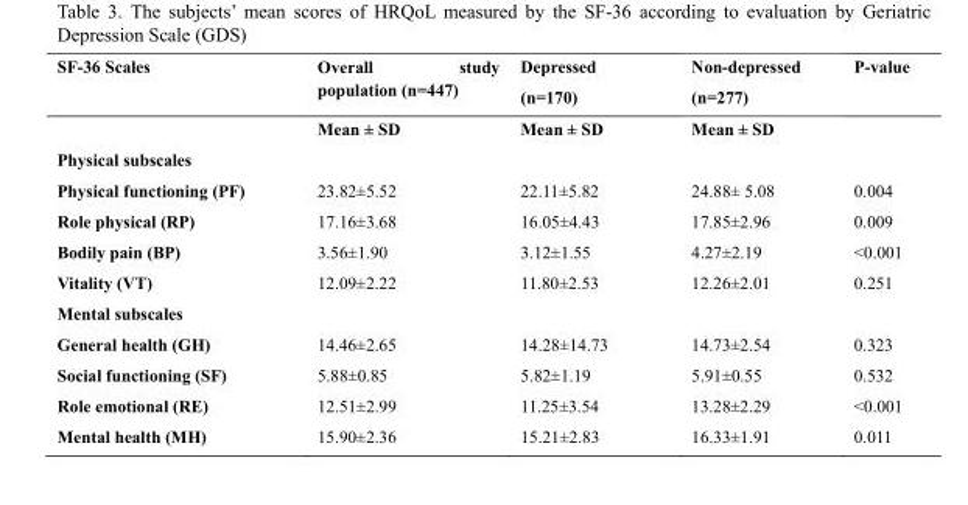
<table><thead><tr><td>SF-36 Scales</td><td>Overall study population (n=447)</td><td>Depressed (n=170)</td><td>Non-depressed (n=277)</td><td>P-value</td></tr></thead><tbody><tr><td></td><td>Mean ± SD</td><td>Mean ± SD</td><td>Mean ± SD</td><td></td></tr><tr><td colspan="5">Physical subscales</td></tr><tr><td>Physical functioning (PF)</td><td>23.82±5.52</td><td>22.11±5.82</td><td>24.88± 5.08</td><td>0.004</td></tr><tr><td>Role physical (RP)</td><td>17.16±3.68</td><td>16.05±4.43</td><td>17.85±2.96</td><td>0.009</td></tr><tr><td>Bodily pain (BP)</td><td>3.56±1.90</td><td>3.12±1.55</td><td>4.27±2.19</td><td>&lt;0.001</td></tr><tr><td>Vitality (VT)</td><td>12.09±2.22</td><td>11.80±2.53</td><td>12.26±2.01</td><td>0.251</td></tr><tr><td colspan="5">Mental subscales</td></tr><tr><td>General health (GH)</td><td>14.46±2.65</td><td>14.28±14.73</td><td>14.73±2.54</td><td>0.323</td></tr><tr><td>Social functioning (SF)</td><td>5.88±0.85</td><td>5.82±1.19</td><td>5.91±0.55</td><td>0.532</td></tr><tr><td>Role emotional (RE)</td><td>12.51±2.99</td><td>11.25±3.54</td><td>13.28±2.29</td><td>&lt;0.001</td></tr><tr><td>Mental health (MH)</td><td>15.90±2.36</td><td>15.21±2.83</td><td>16.33±1.91</td><td>0.011</td></tr></tbody></table>